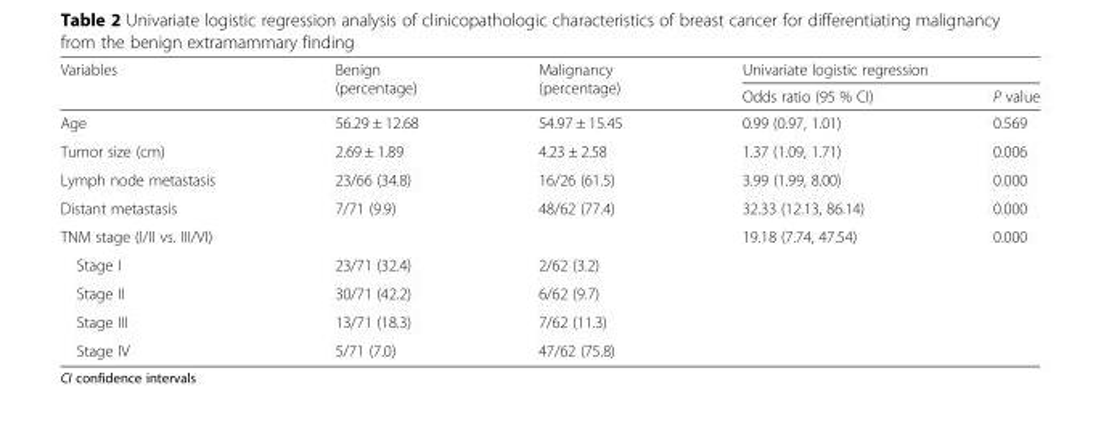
<table><thead><tr><td rowspan="2">Variables</td><td rowspan="2">Benign (percentage)</td><td rowspan="2">Malignancy (percentage)</td><td colspan="2">Univariate logistic regression</td></tr><tr><td>Odds ratio (95 % CI)</td><td>P value</td></tr></thead><tbody><tr><td>Age</td><td>56.29 ± 12.68</td><td>54.97 ± 15.45</td><td>0.99 (0.97, 1.01)</td><td>0.569</td></tr><tr><td>Tumor size (cm)</td><td>2.69 ± 1.89</td><td>4.23 ± 2.58</td><td>1.37 (1.09, 1.71)</td><td>0.006</td></tr><tr><td>Lymph node metastasis</td><td>23/66 (34.8)</td><td>16/26 (61.5)</td><td>3.99 (1.99, 8.00)</td><td>0.000</td></tr><tr><td>Distant metastasis</td><td>7/71 (9.9)</td><td>48/62 (77.4)</td><td>32.33 (12.13, 86.14)</td><td>0.000</td></tr><tr><td colspan="2">TNM stage (I/II vs. III/VI)</td><td></td><td>19.18 (7.74, 47.54)</td><td>0.000</td></tr><tr><td>Stage I</td><td>23/71 (32.4)</td><td>2/62 (3.2)</td><td></td><td></td></tr><tr><td>Stage II</td><td>30/71 (42.2)</td><td>6/62 (9.7)</td><td></td><td></td></tr><tr><td>Stage III</td><td>13/71 (18.3)</td><td>7/62 (11.3)</td><td></td><td></td></tr><tr><td>Stage IV</td><td>5/71 (7.0)</td><td>47/62 (75.8)</td><td></td><td></td></tr></tbody></table>